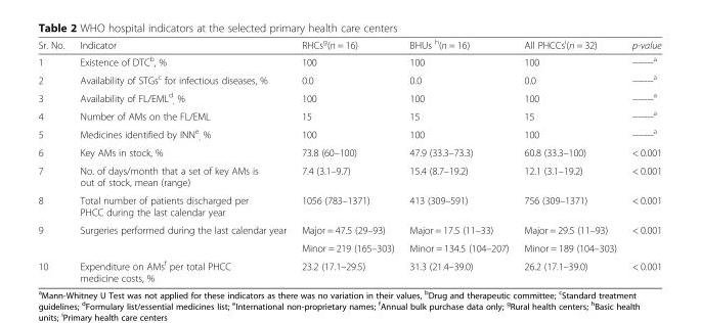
<table><thead><tr><td>Sr. No.</td><td>Indicator</td><td>RHCs<sup>g</sup>(n = 16)</td><td>BHUs <sup>h</sup>(n = 16)</td><td>All PHCCs<sup>i</sup>(n = 32)</td><td>p-value</td></tr></thead><tbody><tr><td>1</td><td>Existence of DTC<sup>b</sup>, %</td><td>100</td><td>100</td><td>100</td><td>-------<sup>a</sup></td></tr><tr><td>2</td><td>Availability of STGs<sup>c</sup> for infectious diseases, %</td><td>0.0</td><td>0.0</td><td>0.0</td><td>-------<sup>a</sup></td></tr><tr><td>3</td><td>Availability of FL/EML<sup>d</sup> <sub>,</sub> %</td><td>100</td><td>100</td><td>100</td><td>-------<sup>a</sup></td></tr><tr><td>4</td><td>Number of AMs on the FL/EML</td><td>15</td><td>15</td><td>15</td><td>-------<sup>a</sup></td></tr><tr><td>5</td><td>Medicines identified by INN<sup>e</sup> <sub>,</sub> %</td><td>100</td><td>100</td><td>100</td><td>-------<sup>a</sup></td></tr><tr><td>6</td><td>Key AMs in stock, %</td><td>73.8 (60–100)</td><td>47.9 (33.3–73.3)</td><td>60.8 (33.3–100)</td><td>&lt; 0.001</td></tr><tr><td>7</td><td>No. of days/month that a set of key AMs is out of stock, mean (range)</td><td>7.4 (3.1–9.7)</td><td>15.4 (8.7–19.2)</td><td>12.1 (3.1–19.2)</td><td>&lt; 0.001</td></tr><tr><td>8</td><td>Total number of patients discharged per PHCC during the last calendar year</td><td>1056 (783–1371)</td><td>413 (309–591)</td><td>756 (309–1371)</td><td>&lt; 0.001</td></tr><tr><td rowspan="2">9</td><td rowspan="2">Surgeries performed during the last calendar year</td><td>Major = 47.5 (29–93)</td><td>Major = 17.5 (11–33)</td><td>Major = 29.5 (11–93)</td><td rowspan="2">&lt; 0.001</td></tr><tr><td>Minor = 219 (165–303)</td><td>Minor = 134.5 (104–207)</td><td>Minor = 189 (104–303)</td></tr><tr><td>10</td><td>Expenditure on AMs<sup>f</sup> per total PHCC medicine costs, %</td><td>23.2 (17.1–29.5)</td><td>31.3 (21.4–39.0)</td><td>26.2 (17.1–39.0)</td><td>&lt; 0.001</td></tr></tbody></table>